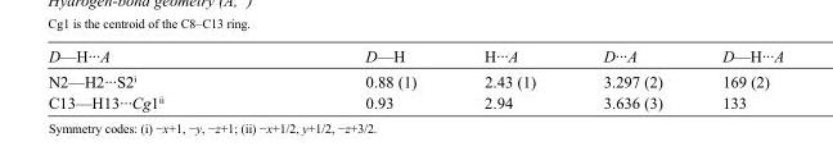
<table><tbody><tr><td>D—H···A</td><td>D—H</td><td>H···A</td><td>D···A</td><td>D—H···A</td></tr><tr><td>N2—H2···S2<sup>i</sup></td><td>0.88 (1)</td><td>2.43 (1)</td><td>3.297 (2)</td><td>169 (2)</td></tr><tr><td>C13—H13···Cg1<sup>ii</sup></td><td>0.93</td><td>2.94</td><td>3.636 (3)</td><td>133</td></tr></tbody></table>